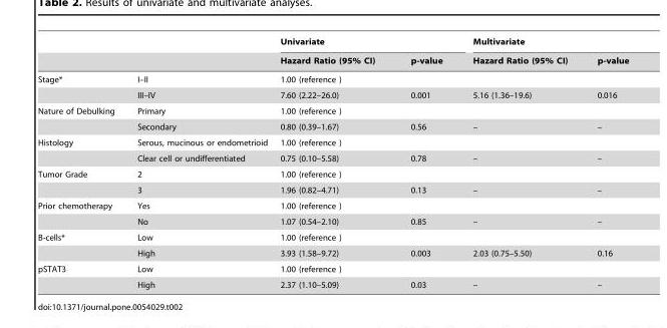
<table><thead><tr><td rowspan="2"></td><td rowspan="2"></td><td colspan="2">Univariate</td><td colspan="2">Multivariate</td></tr><tr><td>Hazard Ratio (95% CI)</td><td>p-value</td><td>Hazard Ratio (95% CI)</td><td>p-value</td></tr></thead><tbody><tr><td rowspan="2">Stage*</td><td>I–II</td><td>1.00 (reference )</td><td></td><td></td><td></td></tr><tr><td>III–IV</td><td>7.60 (2.22–26.0)</td><td>0.001</td><td>5.16 (1.36–19.6)</td><td>0.016</td></tr><tr><td rowspan="2">Nature of Debulking</td><td>Primary</td><td>1.00 (reference )</td><td></td><td></td><td></td></tr><tr><td>Secondary</td><td>0.80 (0.39–1.67)</td><td>0.56</td><td>–</td><td>–</td></tr><tr><td rowspan="2">Histology</td><td>Serous, mucinous or endometrioid</td><td>1.00 (reference )</td><td></td><td></td><td></td></tr><tr><td>Clear cell or undifferentiated</td><td>0.75 (0.10–5.58)</td><td>0.78</td><td>–</td><td>–</td></tr><tr><td rowspan="2">Tumor Grade</td><td>2</td><td>1.00 (reference )</td><td></td><td></td><td></td></tr><tr><td>3</td><td>1.96 (0.82–4.71)</td><td>0.13</td><td>–</td><td>–</td></tr><tr><td rowspan="2">Prior chemotherapy</td><td>Yes</td><td>1.00 (reference )</td><td></td><td></td><td></td></tr><tr><td>No</td><td>1.07 (0.54–2.10)</td><td>0.85</td><td>–</td><td>–</td></tr><tr><td rowspan="2">B-cells*</td><td>Low</td><td>1.00 (reference )</td><td></td><td></td><td></td></tr><tr><td>High</td><td>3.93 (1.58–9.72)</td><td>0.003</td><td>2.03 (0.75–5.50)</td><td>0.16</td></tr><tr><td rowspan="2">pSTAT3</td><td>Low</td><td>1.00 (reference )</td><td></td><td></td><td></td></tr><tr><td>High</td><td>2.37 (1.10–5.09)</td><td>0.03</td><td>–</td><td>–</td></tr></tbody></table>